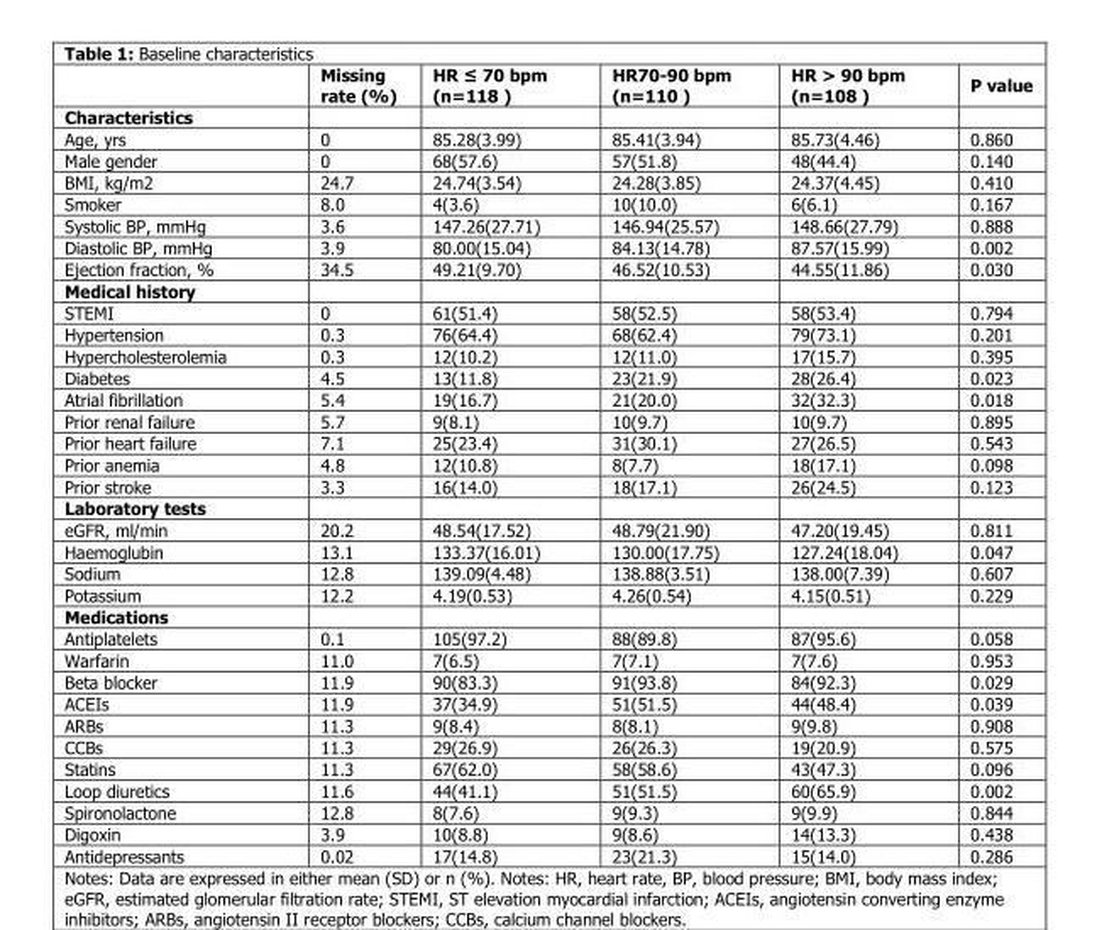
<table><thead><tr><td></td><td>Missing rate (%)</td><td>HR ≤ 70 bpm (n=118 )</td><td>HR70-90 bpm (n=110 )</td><td>HR &gt; 90 bpm (n=108 )</td><td>P value</td></tr></thead><tbody><tr><td colspan="6">Characteristics</td></tr><tr><td>Age, yrs</td><td>0</td><td>85.28(3.99)</td><td>85.41(3.94)</td><td>85.73(4.46)</td><td>0.860</td></tr><tr><td>Male gender</td><td>0</td><td>68(57.6)</td><td>57(51.8)</td><td>48(44.4)</td><td>0.140</td></tr><tr><td>BMI, kg/m2</td><td>24.7</td><td>24.74(3.54)</td><td>24.28(3.85)</td><td>24.37(4.45)</td><td>0.410</td></tr><tr><td>Smoker</td><td>8.0</td><td>4(3.6)</td><td>10(10.0)</td><td>6(6.1)</td><td>0.167</td></tr><tr><td>Systolic BP, mmHg</td><td>3.6</td><td>147.26(27.71)</td><td>146.94(25.57)</td><td>148.66(27.79)</td><td>0.888</td></tr><tr><td>Diastolic BP, mmHg</td><td>3.9</td><td>80.00(15.04)</td><td>84.13(14.78)</td><td>87.57(15.99)</td><td>0.002</td></tr><tr><td>Ejection fraction, %</td><td>34.5</td><td>49.21(9.70)</td><td>46.52(10.53)</td><td>44.55(11.86)</td><td>0.030</td></tr><tr><td colspan="6">Medical history</td></tr><tr><td>STEMI</td><td>0</td><td>61(51.4)</td><td>58(52.5)</td><td>58(53.4)</td><td>0.794</td></tr><tr><td>Hypertension</td><td>0.3</td><td>76(64.4)</td><td>68(62.4)</td><td>79(73.1)</td><td>0.201</td></tr><tr><td>Hypercholesterolemia</td><td>0.3</td><td>12(10.2)</td><td>12(11.0)</td><td>17(15.7)</td><td>0.395</td></tr><tr><td>Diabetes</td><td>4.5</td><td>13(11.8)</td><td>23(21.9)</td><td>28(26.4)</td><td>0.023</td></tr><tr><td>Atrial fibrillation</td><td>5.4</td><td>19(16.7)</td><td>21(20.0)</td><td>32(32.3)</td><td>0.018</td></tr><tr><td>Prior renal failure</td><td>5.7</td><td>9(8.1)</td><td>10(9.7)</td><td>10(9.7)</td><td>0.895</td></tr><tr><td>Prior heart failure</td><td>7.1</td><td>25(23.4)</td><td>31(30.1)</td><td>27(26.5)</td><td>0.543</td></tr><tr><td>Prior anemia</td><td>4.8</td><td>12(10.8)</td><td>8(7.7)</td><td>18(17.1)</td><td>0.098</td></tr><tr><td>Prior stroke</td><td>3.3</td><td>16(14.0)</td><td>18(17.1)</td><td>26(24.5)</td><td>0.123</td></tr><tr><td colspan="6">Laboratory tests</td></tr><tr><td>eGFR, ml/min</td><td>20.2</td><td>48.54(17.52)</td><td>48.79(21.90)</td><td>47.20(19.45)</td><td>0.811</td></tr><tr><td>Haemoglubin</td><td>13.1</td><td>133.37(16.01)</td><td>130.00(17.75)</td><td>127.24(18.04)</td><td>0.047</td></tr><tr><td>Sodium</td><td>12.8</td><td>139.09(4.48)</td><td>138.88(3.51)</td><td>138.00(7.39)</td><td>0.607</td></tr><tr><td>Potassium</td><td>12.2</td><td>4.19(0.53)</td><td>4.26(0.54)</td><td>4.15(0.51)</td><td>0.229</td></tr><tr><td colspan="6">Medications</td></tr><tr><td>Antiplatelets</td><td>0.1</td><td>105(97.2)</td><td>88(89.8)</td><td>87(95.6)</td><td>0.058</td></tr><tr><td>Warfarin</td><td>11.0</td><td>7(6.5)</td><td>7(7.1)</td><td>7(7.6)</td><td>0.953</td></tr><tr><td>Beta blocker</td><td>11.9</td><td>90(83.3)</td><td>91(93.8)</td><td>84(92.3)</td><td>0.029</td></tr><tr><td>ACEIs</td><td>11.9</td><td>37(34.9)</td><td>51(51.5)</td><td>44(48.4)</td><td>0.039</td></tr><tr><td>ARBs</td><td>11.3</td><td>9(8.4)</td><td>8(8.1)</td><td>9(9.8)</td><td>0.908</td></tr><tr><td>CCBs</td><td>11.3</td><td>29(26.9)</td><td>26(26.3)</td><td>19(20.9)</td><td>0.575</td></tr><tr><td>Statins</td><td>11.3</td><td>67(62.0)</td><td>58(58.6)</td><td>43(47.3)</td><td>0.096</td></tr><tr><td>Loop diuretics</td><td>11.6</td><td>44(41.1)</td><td>51(51.5)</td><td>60(65.9)</td><td>0.002</td></tr><tr><td>Spironolactone</td><td>12.8</td><td>8(7.6)</td><td>9(9.3)</td><td>9(9.9)</td><td>0.844</td></tr><tr><td>Digoxin</td><td>3.9</td><td>10(8.8)</td><td>9(8.6)</td><td>14(13.3)</td><td>0.438</td></tr><tr><td>Antidepressants</td><td>0.02</td><td>17(14.8)</td><td>23(21.3)</td><td>15(14.0)</td><td>0.286</td></tr></tbody></table>